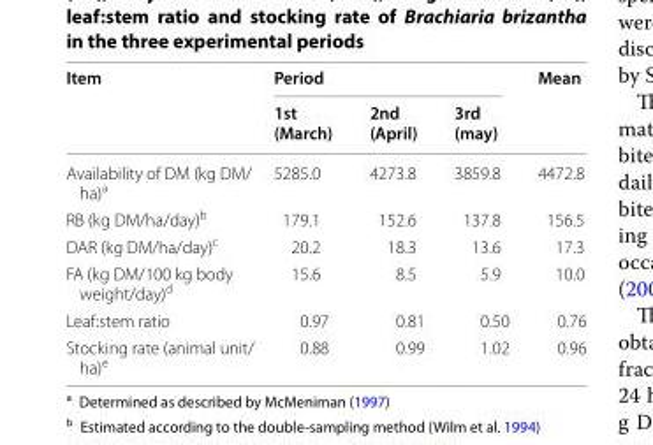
<table><thead><tr><td rowspan="2">Item</td><td colspan="3">Period</td><td rowspan="2">Mean</td></tr><tr><td>1st (March)</td><td>2nd (April)</td><td>3rd (may)</td></tr></thead><tbody><tr><td>Availability of DM (kg DM/ ha)<sup>a</sup></td><td>5285.0</td><td>4273.8</td><td>3859.8</td><td>4472.8</td></tr><tr><td>RB (kg DM/ha/day)<sup>b</sup></td><td>179.1</td><td>152.6</td><td>137.8</td><td>156.5</td></tr><tr><td>DAR (kg DM/ha/day)<sup>c</sup></td><td>20.2</td><td>18.3</td><td>13.6</td><td>17.3</td></tr><tr><td>FA (kg DM/100 kg body weight/day)<sup>d</sup></td><td>15.6</td><td>8.5</td><td>5.9</td><td>10.0</td></tr><tr><td>Leaf:stem ratio</td><td>0.97</td><td>0.81</td><td>0.50</td><td>0.76</td></tr><tr><td>Stocking rate (animal unit/ ha)<sup>e</sup></td><td>0.88</td><td>0.99</td><td>1.02</td><td>0.96</td></tr></tbody></table>